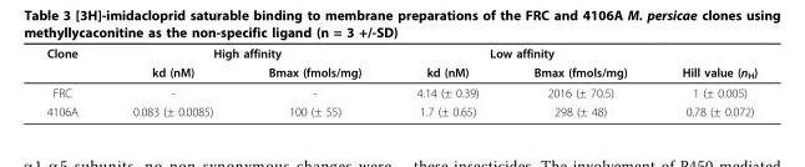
<table><thead><tr><td rowspan="2">Clone</td><td colspan="2">High affinity</td><td colspan="2">Low affinity</td><td rowspan="2">Hill value (n<sub>H</sub>)</td></tr><tr><td>kd (nM)</td><td>Bmax (fmols/mg)</td><td>kd (nM)</td><td>Bmax (fmols/mg)</td></tr></thead><tbody><tr><td>FRC</td><td>-</td><td>-</td><td>4.14 (± 0.39)</td><td>2016 (± 70.5)</td><td>1 (± 0.005)</td></tr><tr><td>4106A</td><td>0.083 (± 0.0085)</td><td>100 (± 55)</td><td>1.7 (± 0.65)</td><td>298 (± 48)</td><td>0.78 (± 0.072)</td></tr></tbody></table>